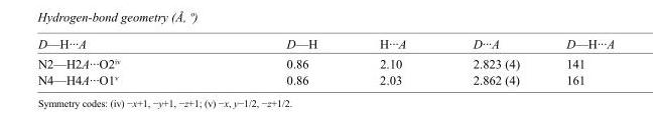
<table><tbody><tr><td>D—H···A</td><td>D—H</td><td>H···A</td><td>D···A</td><td>D—H···A</td></tr><tr><td>N2—H2A···O2<sup>iv</sup></td><td>0.86</td><td>2.10</td><td>2.823 (4)</td><td>141</td></tr><tr><td>N4—H4A···O1<sup>v</sup></td><td>0.86</td><td>2.03</td><td>2.862 (4)</td><td>161</td></tr></tbody></table>